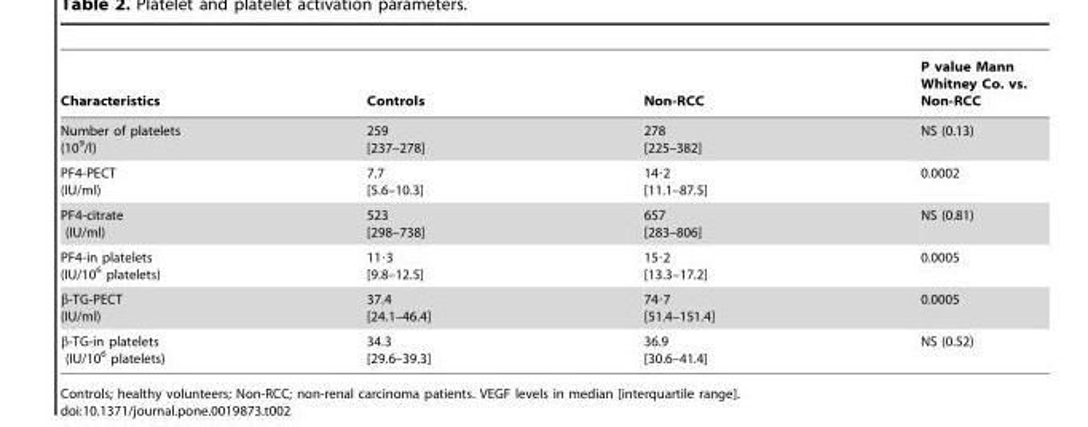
<table><thead><tr><td>Characteristics</td><td>Controls</td><td>Non-RCC</td><td>P value Mann Whitney Co. vs. Non-RCC</td></tr></thead><tbody><tr><td>Number of platelets (10<sup>9</sup>/l)</td><td>259 [237–278]</td><td>278 [225–382]</td><td>NS (0.13)</td></tr><tr><td>PF4-PECT (IU/ml)</td><td>7.7 [5.6–10.3]</td><td>14·2 [11.1–87.5]</td><td>0.0002</td></tr><tr><td>PF4-citrate (IU/ml)</td><td>523 [298–738]</td><td>657 [283–806]</td><td>NS (0.81)</td></tr><tr><td>PF4-in platelets (IU/10<sup>6</sup> platelets)</td><td>11·3 [9.8–12.5]</td><td>15·2 [13.3–17.2]</td><td>0.0005</td></tr><tr><td>β-TG-PECT (IU/ml)</td><td>37.4 [24.1–46.4]</td><td>74·7 [51.4–151.4]</td><td>0.0005</td></tr><tr><td>β-TG-in platelets (IU/10<sup>6</sup> platelets)</td><td>34.3 [29.6–39.3]</td><td>36.9 [30.6–41.4]</td><td>NS (0.52)</td></tr></tbody></table>